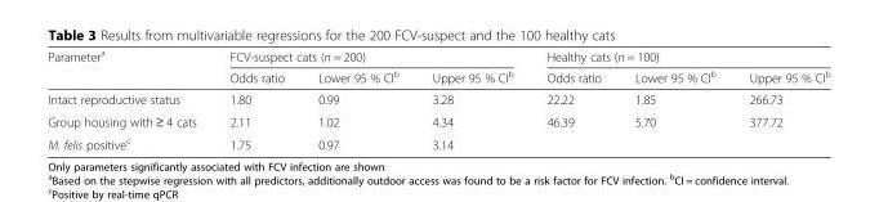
<table><thead><tr><td rowspan="2">Parameter<sup>a</sup></td><td colspan="3">FCV-suspect cats (n = 200)</td><td colspan="3">Healthy cats (n = 100)</td></tr><tr><td>Odds ratio</td><td>Lower 95 % CI<sup>b</sup></td><td>Upper 95 % CI<sup>b</sup></td><td>Odds ratio</td><td>Lower 95 % CI<sup>b</sup></td><td>Upper 95 % CI<sup>b</sup></td></tr></thead><tbody><tr><td>Intact reproductive status</td><td>1.80</td><td>0.99</td><td>3.28</td><td>22.22</td><td>1.85</td><td>266.73</td></tr><tr><td>Group housing with ≥ 4 cats</td><td>2.11</td><td>1.02</td><td>4.34</td><td>46.39</td><td>5.70</td><td>377.72</td></tr><tr><td>M. felis positive<sup>c</sup></td><td>1.75</td><td>0.97</td><td>3.14</td><td></td><td></td><td></td></tr></tbody></table>